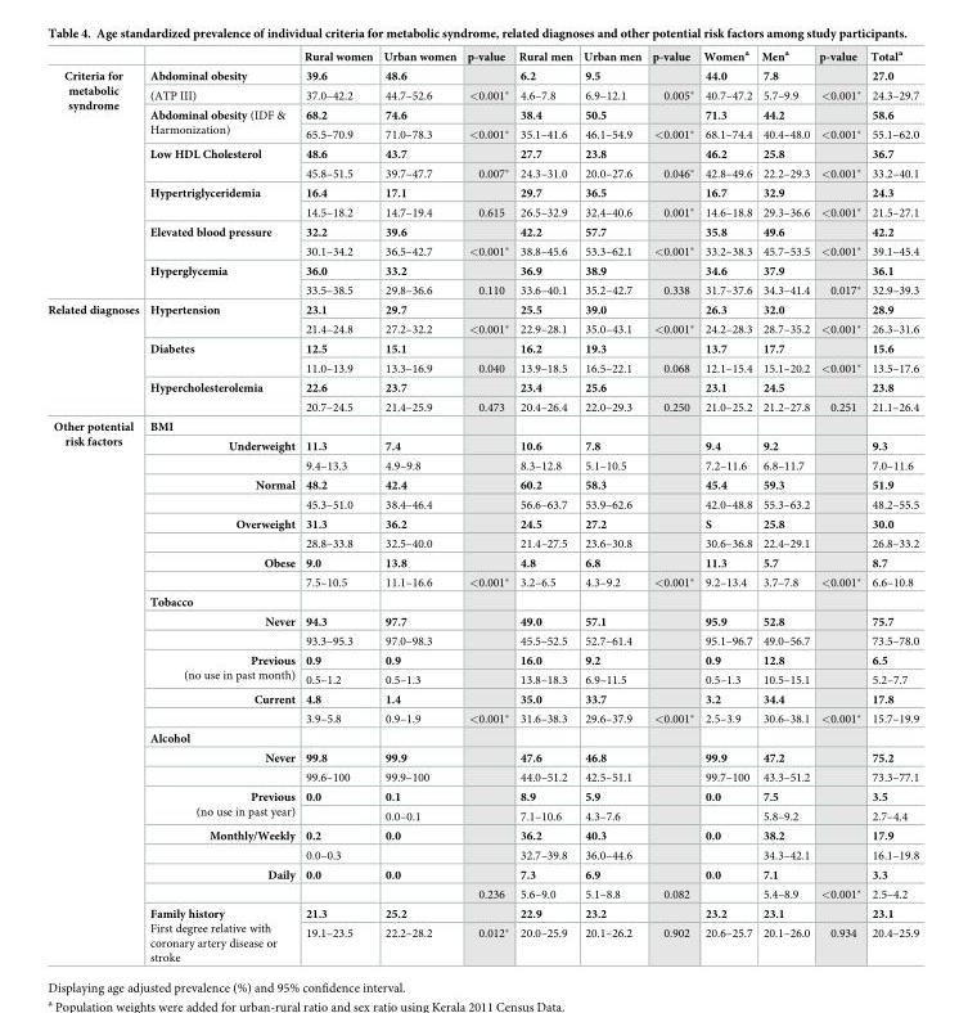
<table><thead><tr><td></td><td></td><td>Rural women</td><td>Urban women</td><td>p-value</td><td>Rural men</td><td>Urban men</td><td>p-value</td><td>Women<sup>a</sup></td><td>Men<sup>a</sup></td><td>p-value</td><td>Total<sup>a</sup></td></tr></thead><tbody><tr><td rowspan="12">Criteria for metabolic syndrome</td><td>Abdominal obesity</td><td>39.6</td><td>48.6</td><td></td><td>6.2</td><td>9.5</td><td></td><td>44.0</td><td>7.8</td><td></td><td>27.0</td></tr><tr><td>(ATP III)</td><td>37.0–42.2</td><td>44.7–52.6</td><td>&lt;0.001*</td><td>4.6–7.8</td><td>6.9–12.1</td><td>0.005*</td><td>40.7–47.2</td><td>5.7–9.9</td><td>&lt;0.001*</td><td>24.3–29.7</td></tr><tr><td rowspan="2">Abdominal obesity (IDF &amp; Harmonization)</td><td>68.2</td><td>74.6</td><td></td><td>38.4</td><td>50.5</td><td></td><td>71.3</td><td>44.2</td><td></td><td>58.6</td></tr><tr><td>65.5–70.9</td><td>71.0–78.3</td><td>&lt;0.001*</td><td>35.1–41.6</td><td>46.1–54.9</td><td>&lt;0.001*</td><td>68.1–74.4</td><td>40.4–48.0</td><td>&lt;0.001*</td><td>55.1–62.0</td></tr><tr><td rowspan="2">Low HDL Cholesterol</td><td>48.6</td><td>43.7</td><td></td><td>27.7</td><td>23.8</td><td></td><td>46.2</td><td>25.8</td><td></td><td>36.7</td></tr><tr><td>45.8–51.5</td><td>39.7–47.7</td><td>0.007*</td><td>24.3–31.0</td><td>20.0–27.6</td><td>0.046*</td><td>42.8–49.6</td><td>22.2–29.3</td><td>&lt;0.001*</td><td>33.2–40.1</td></tr><tr><td rowspan="2">Hypertriglyceridemia</td><td>16.4</td><td>17.1</td><td></td><td>29.7</td><td>36.5</td><td></td><td>16.7</td><td>32.9</td><td></td><td>24.3</td></tr><tr><td>14.5–18.2</td><td>14.7–19.4</td><td>0.615</td><td>26.5–32.9</td><td>32.4–40.6</td><td>0.001*</td><td>14.6–18.8</td><td>29.3–36.6</td><td>&lt;0.001*</td><td>21.5–27.1</td></tr><tr><td rowspan="2">Elevated blood pressure</td><td>32.2</td><td>39.6</td><td></td><td>42.2</td><td>57.7</td><td></td><td>35.8</td><td>49.6</td><td></td><td>42.2</td></tr><tr><td>30.1–34.2</td><td>36.5–42.7</td><td>&lt;0.001*</td><td>38.8–45.6</td><td>53.3–62.1</td><td>&lt;0.001*</td><td>33.2–38.3</td><td>45.7–53.5</td><td>&lt;0.001*</td><td>39.1–45.4</td></tr><tr><td rowspan="2">Hyperglycemia</td><td>36.0</td><td>33.2</td><td></td><td>36.9</td><td>38.9</td><td></td><td>34.6</td><td>37.9</td><td></td><td>36.1</td></tr><tr><td>33.5–38.5</td><td>29.8–36.6</td><td>0.110</td><td>33.6–40.1</td><td>35.2–42.7</td><td>0.338</td><td>31.7–37.6</td><td>34.3–41.4</td><td>0.017*</td><td>32.9–39.3</td></tr><tr><td rowspan="6">Related diagnoses</td><td rowspan="2">Hypertension</td><td>23.1</td><td>29.7</td><td></td><td>25.5</td><td>39.0</td><td></td><td>26.3</td><td>32.0</td><td></td><td>28.9</td></tr><tr><td>21.4–24.8</td><td>27.2–32.2</td><td>&lt;0.001*</td><td>22.9–28.1</td><td>35.0–43.1</td><td>&lt;0.001*</td><td>24.2–28.3</td><td>28.7–35.2</td><td>&lt;0.001*</td><td>26.3–31.6</td></tr><tr><td rowspan="2">Diabetes</td><td>12.5</td><td>15.1</td><td></td><td>16.2</td><td>19.3</td><td></td><td>13.7</td><td>17.7</td><td></td><td>15.6</td></tr><tr><td>11.0–13.9</td><td>13.3–16.9</td><td>0.040</td><td>13.9–18.5</td><td>16.5–22.1</td><td>0.068</td><td>12.1–15.4</td><td>15.1–20.2</td><td>&lt;0.001*</td><td>13.5–17.6</td></tr><tr><td rowspan="2">Hypercholesterolemia</td><td>22.6</td><td>23.7</td><td></td><td>23.4</td><td>25.6</td><td></td><td>23.1</td><td>24.5</td><td></td><td>23.8</td></tr><tr><td>20.7–24.5</td><td>21.4–25.9</td><td>0.473</td><td>20.4–26.4</td><td>22.0–29.3</td><td>0.250</td><td>21.0–25.2</td><td>21.2–27.8</td><td>0.251</td><td>21.1–26.4</td></tr><tr><td rowspan="27">Other potential risk factors</td><td>BMI</td><td></td><td></td><td></td><td></td><td></td><td></td><td></td><td></td><td></td><td></td></tr><tr><td>Underweight</td><td>11.3</td><td>7.4</td><td></td><td>10.6</td><td>7.8</td><td></td><td>9.4</td><td>9.2</td><td></td><td>9.3</td></tr><tr><td></td><td>9.4–13.3</td><td>4.9–9.8</td><td></td><td>8.3–12.8</td><td>5.1–10.5</td><td></td><td>7.2–11.6</td><td>6.8–11.7</td><td></td><td>7.0–11.6</td></tr><tr><td>Normal</td><td>48.2</td><td>42.4</td><td></td><td>60.2</td><td>58.3</td><td></td><td>45.4</td><td>59.3</td><td></td><td>51.9</td></tr><tr><td></td><td>45.3–51.0</td><td>38.4–46.4</td><td></td><td>56.6–63.7</td><td>53.9–62.6</td><td></td><td>42.0–48.8</td><td>55.3–63.2</td><td></td><td>48.2–55.5</td></tr><tr><td>Overweight</td><td>31.3</td><td>36.2</td><td></td><td>24.5</td><td>27.2</td><td></td><td>S</td><td>25.8</td><td></td><td>30.0</td></tr><tr><td></td><td>28.8–33.8</td><td>32.5–40.0</td><td></td><td>21.4–27.5</td><td>23.6–30.8</td><td></td><td>30.6–36.8</td><td>22.4–29.1</td><td></td><td>26.8–33.2</td></tr><tr><td>Obese</td><td>9.0</td><td>13.8</td><td></td><td>4.8</td><td>6.8</td><td></td><td>11.3</td><td>5.7</td><td></td><td>8.7</td></tr><tr><td></td><td>7.5–10.5</td><td>11.1–16.6</td><td>&lt;0.001*</td><td>3.2–6.5</td><td>4.3–9.2</td><td>&lt;0.001*</td><td>9.2–13.4</td><td>3.7–7.8</td><td>&lt;0.001*</td><td>6.6–10.8</td></tr><tr><td>Tobacco</td><td></td><td></td><td></td><td></td><td></td><td></td><td></td><td></td><td></td><td></td></tr><tr><td>Never</td><td>94.3</td><td>97.7</td><td></td><td>49.0</td><td>57.1</td><td></td><td>95.9</td><td>52.8</td><td></td><td>75.7</td></tr><tr><td></td><td>93.3–95.3</td><td>97.0–98.3</td><td></td><td>45.5–52.5</td><td>52.7–61.4</td><td></td><td>95.1–96.7</td><td>49.0–56.7</td><td></td><td>73.5–78.0</td></tr><tr><td rowspan="2">Previous (no use in past month)</td><td>0.9</td><td>0.9</td><td></td><td>16.0</td><td>9.2</td><td></td><td>0.9</td><td>12.8</td><td></td><td>6.5</td></tr><tr><td>0.5–1.2</td><td>0.5–1.3</td><td></td><td>13.8–18.3</td><td>6.9–11.5</td><td></td><td>0.5–1.3</td><td>10.5–15.1</td><td></td><td>5.2–7.7</td></tr><tr><td>Current</td><td>4.8</td><td>1.4</td><td></td><td>35.0</td><td>33.7</td><td></td><td>3.2</td><td>34.4</td><td></td><td>17.8</td></tr><tr><td></td><td>3.9–5.8</td><td>0.9–1.9</td><td>&lt;0.001*</td><td>31.6–38.3</td><td>29.6–37.9</td><td>&lt;0.001*</td><td>2.5–3.9</td><td>30.6–38.1</td><td>&lt;0.001*</td><td>15.7–19.9</td></tr><tr><td>Alcohol</td><td></td><td></td><td></td><td></td><td></td><td></td><td></td><td></td><td></td><td></td></tr><tr><td>Never</td><td>99.8</td><td>99.9</td><td></td><td>47.6</td><td>46.8</td><td></td><td>99.9</td><td>47.2</td><td></td><td>75.2</td></tr><tr><td></td><td>99.6–100</td><td>99.9–100</td><td></td><td>44.0–51.2</td><td>42.5–51.1</td><td></td><td>99.7–100</td><td>43.3–51.2</td><td></td><td>73.3–77.1</td></tr><tr><td rowspan="2">Previous (no use in past year)</td><td>0.0</td><td>0.1</td><td></td><td>8.9</td><td>5.9</td><td></td><td>0.0</td><td>7.5</td><td></td><td>3.5</td></tr><tr><td></td><td>0.0–0.1</td><td></td><td>7.1–10.6</td><td>4.3–7.6</td><td></td><td></td><td>5.8–9.2</td><td></td><td>2.7–4.4</td></tr><tr><td>Monthly/Weekly</td><td>0.2</td><td>0.0</td><td></td><td>36.2</td><td>40.3</td><td></td><td>0.0</td><td>38.2</td><td></td><td>17.9</td></tr><tr><td></td><td>0.0–0.3</td><td></td><td></td><td>32.7–39.8</td><td>36.0–44.6</td><td></td><td></td><td>34.3–42.1</td><td></td><td>16.1–19.8</td></tr><tr><td>Daily</td><td>0.0</td><td>0.0</td><td></td><td>7.3</td><td>6.9</td><td></td><td>0.0</td><td>7.1</td><td></td><td>3.3</td></tr><tr><td></td><td></td><td></td><td>0.236</td><td>5.6–9.0</td><td>5.1–8.8</td><td>0.082</td><td></td><td>5.4–8.9</td><td>&lt;0.001*</td><td>2.5–4.2</td></tr><tr><td rowspan="2">Family history First degree relative with coronary artery disease or stroke</td><td>21.3</td><td>25.2</td><td></td><td>22.9</td><td>23.2</td><td></td><td>23.2</td><td>23.1</td><td></td><td>23.1</td></tr><tr><td>19.1–23.5</td><td>22.2–28.2</td><td>0.012*</td><td>20.0–25.9</td><td>20.1–26.2</td><td>0.902</td><td>20.6–25.7</td><td>20.1–26.0</td><td>0.934</td><td>20.4–25.9</td></tr></tbody></table>